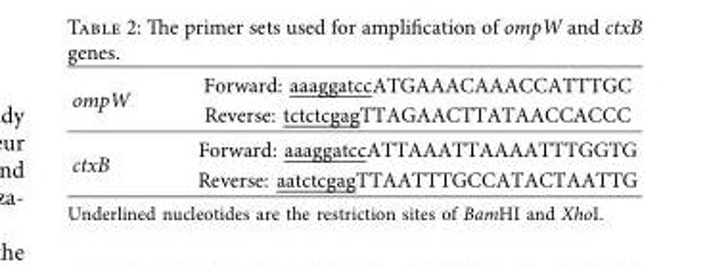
<table><tbody><tr><td rowspan="2">ompW</td><td>Forward: aaaggatccATGAAACAAACCATTTGC</td></tr><tr><td>Reverse: tctctcgagTTAGAACTTATAACCACCC</td></tr><tr><td rowspan="2">ctxB</td><td>Forward: aaaggatccATTAAATTAAAATTTGGTG</td></tr><tr><td>Reverse: aatctcgagTTAATTTGCCATACTAATTG</td></tr></tbody></table>